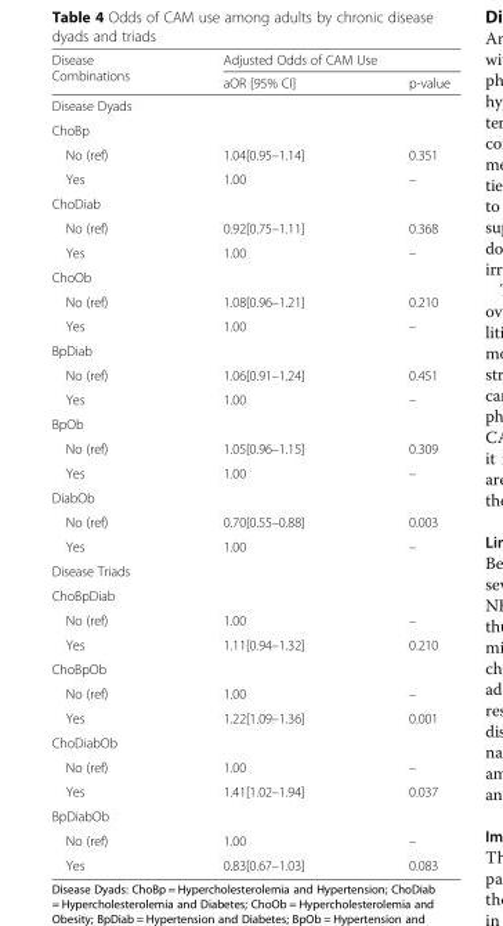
<table><thead><tr><td rowspan="2">Disease Combinations</td><td colspan="2">Adjusted Odds of CAM Use</td></tr><tr><td>aOR [95% CI]</td><td>p-value</td></tr></thead><tbody><tr><td colspan="3">Disease Dyads</td></tr><tr><td colspan="3">ChoBp</td></tr><tr><td>No (ref)</td><td>1.04[0.95–1.14]</td><td>0.351</td></tr><tr><td>Yes</td><td>1.00</td><td>–</td></tr><tr><td colspan="3">ChoDiab</td></tr><tr><td>No (ref)</td><td>0.92[0.75–1.11]</td><td>0.368</td></tr><tr><td>Yes</td><td>1.00</td><td>–</td></tr><tr><td colspan="3">ChoOb</td></tr><tr><td>No (ref)</td><td>1.08[0.96–1.21]</td><td>0.210</td></tr><tr><td>Yes</td><td>1.00</td><td>–</td></tr><tr><td colspan="3">BpDiab</td></tr><tr><td>No (ref)</td><td>1.06[0.91–1.24]</td><td>0.451</td></tr><tr><td>Yes</td><td>1.00</td><td>–</td></tr><tr><td colspan="3">BpOb</td></tr><tr><td>No (ref)</td><td>1.05[0.96–1.15]</td><td>0.309</td></tr><tr><td>Yes</td><td>1.00</td><td>–</td></tr><tr><td colspan="3">DiabOb</td></tr><tr><td>No (ref)</td><td>0.70[0.55–0.88]</td><td>0.003</td></tr><tr><td>Yes</td><td>1.00</td><td>–</td></tr><tr><td colspan="3">Disease Triads</td></tr><tr><td colspan="3">ChoBpDiab</td></tr><tr><td>No (ref)</td><td>1.00</td><td>–</td></tr><tr><td>Yes</td><td>1.11[0.94–1.32]</td><td>0.210</td></tr><tr><td colspan="3">ChoBpOb</td></tr><tr><td>No (ref)</td><td>1.00</td><td>–</td></tr><tr><td>Yes</td><td>1.22[1.09–1.36]</td><td>0.001</td></tr><tr><td colspan="3">ChoDiabOb</td></tr><tr><td>No (ref)</td><td>1.00</td><td>–</td></tr><tr><td>Yes</td><td>1.41[1.02–1.94]</td><td>0.037</td></tr><tr><td colspan="3">BpDiabOb</td></tr><tr><td>No (ref)</td><td>1.00</td><td>–</td></tr><tr><td>Yes</td><td>0.83[0.67–1.03]</td><td>0.083</td></tr></tbody></table>